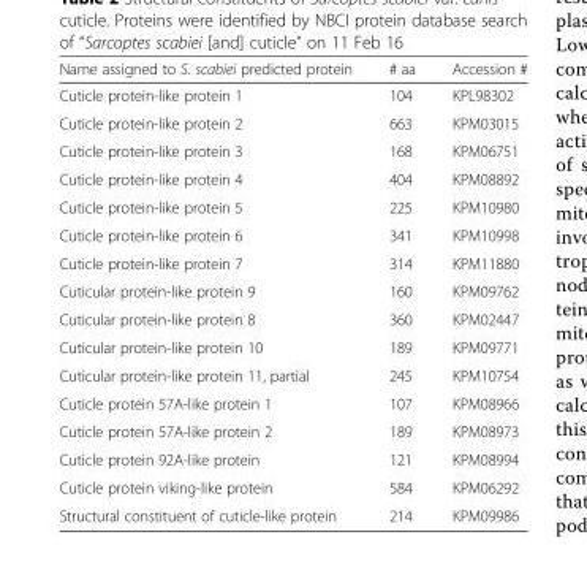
<table><thead><tr><td>Name assigned to S. scabiei predicted protein</td><td># aa</td><td>Accession #</td></tr></thead><tbody><tr><td>Cuticle protein-like protein 1</td><td>104</td><td>KPL98302</td></tr><tr><td>Cuticle protein-like protein 2</td><td>663</td><td>KPM03015</td></tr><tr><td>Cuticle protein-like protein 3</td><td>168</td><td>KPM06751</td></tr><tr><td>Cuticle protein-like protein 4</td><td>404</td><td>KPM08892</td></tr><tr><td>Cuticle protein-like protein 5</td><td>225</td><td>KPM10980</td></tr><tr><td>Cuticle protein-like protein 6</td><td>341</td><td>KPM10998</td></tr><tr><td>Cuticle protein-like protein 7</td><td>314</td><td>KPM11880</td></tr><tr><td>Cuticular protein-like protein 9</td><td>160</td><td>KPM09762</td></tr><tr><td>Cuticular protein-like protein 8</td><td>360</td><td>KPM02447</td></tr><tr><td>Cuticular protein-like protein 10</td><td>189</td><td>KPM09771</td></tr><tr><td>Cuticular protein-like protein 11, partial</td><td>245</td><td>KPM10754</td></tr><tr><td>Cuticle protein 57A-like protein 1</td><td>107</td><td>KPM08966</td></tr><tr><td>Cuticle protein 57A-like protein 2</td><td>189</td><td>KPM08973</td></tr><tr><td>Cuticle protein 92A-like protein</td><td>121</td><td>KPM08994</td></tr><tr><td>Cuticle protein viking-like protein</td><td>584</td><td>KPM06292</td></tr><tr><td>Structural constituent of cuticle-like protein</td><td>214</td><td>KPM09986</td></tr></tbody></table>